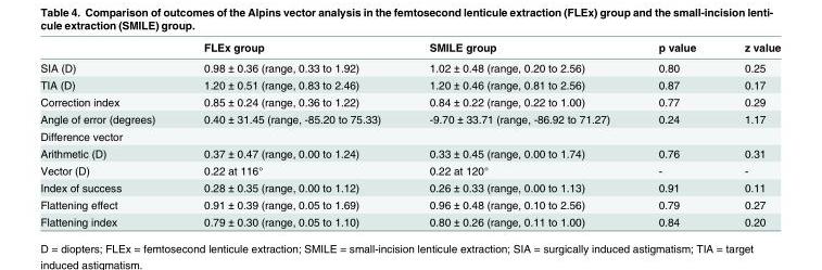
<table><thead><tr><td></td><td>FLEx group</td><td>SMILE group</td><td>p value</td><td>z value</td></tr></thead><tbody><tr><td>SIA (D)</td><td>0.98 ± 0.36 (range, 0.33 to 1.92)</td><td>1.02 ± 0.48 (range, 0.20 to 2.56)</td><td>0.80</td><td>0.25</td></tr><tr><td>TIA (D)</td><td>1.20 ± 0.51 (range, 0.83 to 2.46)</td><td>1.20 ± 0.46 (range, 0.81 to 2.56)</td><td>0.87</td><td>0.17</td></tr><tr><td>Correction index</td><td>0.85 ± 0.24 (range, 0.36 to 1.22)</td><td>0.84 ± 0.22 (range, 0.22 to 1.00)</td><td>0.77</td><td>0.29</td></tr><tr><td>Angle of error (degrees)</td><td>0.40 ± 31.45 (range, -85.20 to 75.33)</td><td>-9.70 ± 33.71 (range, -86.92 to 71.27)</td><td>0.24</td><td>1.17</td></tr><tr><td colspan="5">Difference vector</td></tr><tr><td>Arithmetic (D)</td><td>0.37 ± 0.47 (range, 0.00 to 1.24)</td><td>0.33 ± 0.45 (range, 0.00 to 1.74)</td><td>0.76</td><td>0.31</td></tr><tr><td>Vector (D)</td><td>0.22 at 116°</td><td>0.22 at 120°</td><td>-</td><td>-</td></tr><tr><td>Index of success</td><td>0.28 ± 0.35 (range, 0.00 to 1.12)</td><td>0.26 ± 0.33 (range, 0.00 to 1.13)</td><td>0.91</td><td>0.11</td></tr><tr><td>Flattening effect</td><td>0.91 ± 0.39 (range, 0.05 to 1.69)</td><td>0.96 ± 0.48 (range, 0.10 to 2.56)</td><td>0.79</td><td>0.27</td></tr><tr><td>Flattening index</td><td>0.79 ± 0.30 (range, 0.05 to 1.10)</td><td>0.80 ± 0.26 (range, 0.11 to 1.00)</td><td>0.84</td><td>0.20</td></tr></tbody></table>